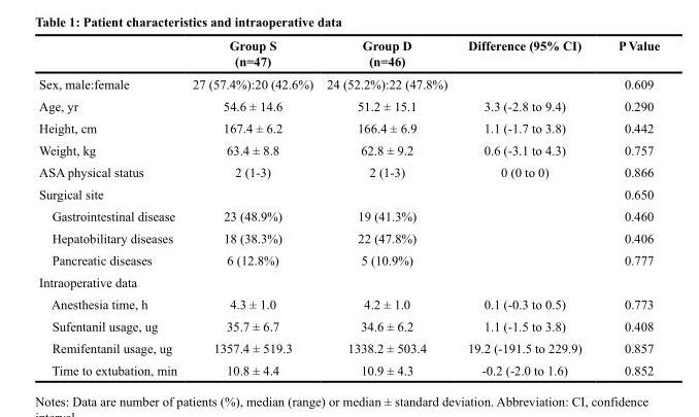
<table><thead><tr><td></td><td>Group S (n=47)</td><td>Group D (n=46)</td><td>Difference (95% CI)</td><td>P Value</td></tr></thead><tbody><tr><td>Sex, male:female</td><td>27 (57.4%):20 (42.6%)</td><td>24 (52.2%):22 (47.8%)</td><td></td><td>0.609</td></tr><tr><td>Age, yr</td><td>54.6 ± 14.6</td><td>51.2 ± 15.1</td><td>3.3 (-2.8 to 9.4)</td><td>0.290</td></tr><tr><td>Height, cm</td><td>167.4 ± 6.2</td><td>166.4 ± 6.9</td><td>1.1 (-1.7 to 3.8)</td><td>0.442</td></tr><tr><td>Weight, kg</td><td>63.4 ± 8.8</td><td>62.8 ± 9.2</td><td>0.6 (-3.1 to 4.3)</td><td>0.757</td></tr><tr><td>ASA physical status</td><td>2 (1-3)</td><td>2 (1-3)</td><td>0 (0 to 0)</td><td>0.866</td></tr><tr><td>Surgical site</td><td></td><td></td><td></td><td>0.650</td></tr><tr><td>Gastrointestinal disease</td><td>23 (48.9%)</td><td>19 (41.3%)</td><td></td><td>0.460</td></tr><tr><td>Hepatobilitary diseases</td><td>18 (38.3%)</td><td>22 (47.8%)</td><td></td><td>0.406</td></tr><tr><td>Pancreatic diseases</td><td>6 (12.8%)</td><td>5 (10.9%)</td><td></td><td>0.777</td></tr><tr><td colspan="5">Intraoperative data</td></tr><tr><td>Anesthesia time, h</td><td>4.3 ± 1.0</td><td>4.2 ± 1.0</td><td>0.1 (-0.3 to 0.5)</td><td>0.773</td></tr><tr><td>Sufentanil usage, ug</td><td>35.7 ± 6.7</td><td>34.6 ± 6.2</td><td>1.1 (-1.5 to 3.8)</td><td>0.408</td></tr><tr><td>Remifentanil usage, ug</td><td>1357.4 ± 519.3</td><td>1338.2 ± 503.4</td><td>19.2 (-191.5 to 229.9)</td><td>0.857</td></tr><tr><td>Time to extubation, min</td><td>10.8 ± 4.4</td><td>10.9 ± 4.3</td><td>-0.2 (-2.0 to 1.6)</td><td>0.852</td></tr></tbody></table>